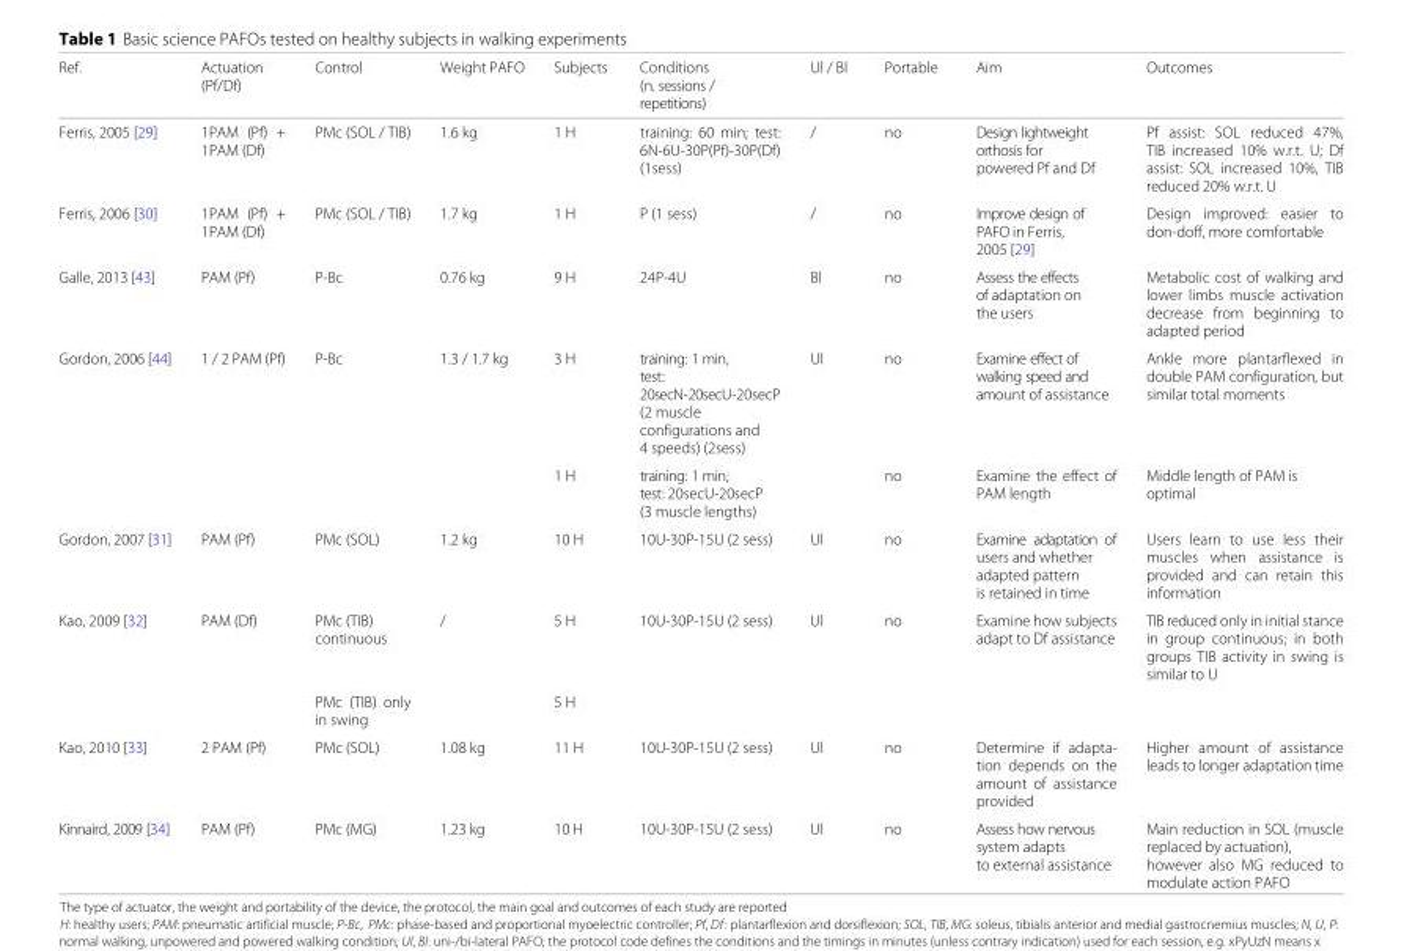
<table><thead><tr><td>Ref.</td><td>Actuation (Pf/Df)</td><td>Control</td><td>Weight PAFO</td><td>Subjects</td><td>Conditions (n. sessions / repetitions)</td><td>Ul / Bl</td><td>Portable</td><td>Aim</td><td>Outcomes</td></tr></thead><tbody><tr><td>Ferris, 2005 [29]</td><td>1PAM (Pf) + 1PAM (Df)</td><td>PMc (SOL / TIB)</td><td>1.6 kg</td><td>1 H</td><td>training: 60 min; test: 6N-6U-30P(Pf)-30P(Df) (1sess)</td><td>/</td><td>no</td><td>Design lightweight orthosis for powered Pf and Df</td><td>Pf assist: SOL reduced 47%, TIB increased 10% w.r.t. U; Df assist: SOL increased 10%, TIB reduced 20% w.r.t. U</td></tr><tr><td>Ferris, 2006 [30]</td><td>1PAM (Pf) + 1PAM (Df)</td><td>PMc (SOL / TIB)</td><td>1.7 kg</td><td>1 H</td><td>P (1 sess)</td><td>/</td><td>no</td><td>Improve design of PAFO in Ferris, 2005 [29]</td><td>Design improved: easier to don-doff, more comfortable</td></tr><tr><td>Galle, 2013 [43]</td><td>PAM (Pf)</td><td>P-Bc</td><td>0.76 kg</td><td>9 H</td><td>24P-4U</td><td>Bl</td><td>no</td><td>Assess the effects of adaptation on the users</td><td>Metabolic cost of walking and lower limbs muscle activation decrease from beginning to adapted period</td></tr><tr><td rowspan="2">Gordon, 2006 [44]</td><td>1 / 2 PAM (Pf)</td><td>P-Bc</td><td>1.3 / 1.7 kg</td><td>3 H</td><td>training: 1 min, test: 20secN-20secU-20secP (2 muscle configurations and 4 speeds) (2sess)</td><td>Ul</td><td>no</td><td>Examine effect of walking speed and amount of assistance</td><td>Ankle more plantarflexed in double PAM configuration, but similar total moments</td></tr><tr><td></td><td></td><td></td><td>1 H</td><td>training: 1 min; test: 20secU-20secP (3 muscle lengths)</td><td></td><td>no</td><td>Examine the effect of PAM length</td><td>Middle length of PAM is optimal</td></tr><tr><td>Gordon, 2007 [31]</td><td>PAM (Pf)</td><td>PMc (SOL)</td><td>1.2 kg</td><td>10 H</td><td>10U-30P-15U (2 sess)</td><td>Ul</td><td>no</td><td>Examine adaptation of users and whether adapted pattern is retained in time</td><td>Users learn to use less their muscles when assistance is provided and can retain this information</td></tr><tr><td rowspan="2">Kao, 2009 [32]</td><td>PAM (Df)</td><td>PMc (TIB) continuous</td><td>/</td><td>5 H</td><td>10U-30P-15U (2 sess)</td><td>Ul</td><td>no</td><td>Examine how subjects adapt to Df assistance</td><td>TIB reduced only in initial stance in group continuous; in both groups TIB activity in swing is similar to U</td></tr><tr><td></td><td>PMc (TIB) only in swing</td><td></td><td>5 H</td><td></td><td></td><td></td><td></td><td></td></tr><tr><td>Kao, 2010 [33]</td><td>2 PAM (Pf)</td><td>PMc (SOL)</td><td>1.08 kg</td><td>11 H</td><td>10U-30P-15U (2 sess)</td><td>Ul</td><td>no</td><td>Determine if adapta- tion depends on the amount of assistance provided</td><td>Higher amount of assistance leads to longer adaptation time</td></tr><tr><td>Kinnaird, 2009 [34]</td><td>PAM (Pf)</td><td>PMc (MG)</td><td>1.23 kg</td><td>10 H</td><td>10U-30P-15U (2 sess)</td><td>Ul</td><td>no</td><td>Assess how nervous system adapts to external assistance</td><td>Main reduction in SOL (muscle replaced by actuation), however also MG reduced to modulate action PAFO</td></tr></tbody></table>